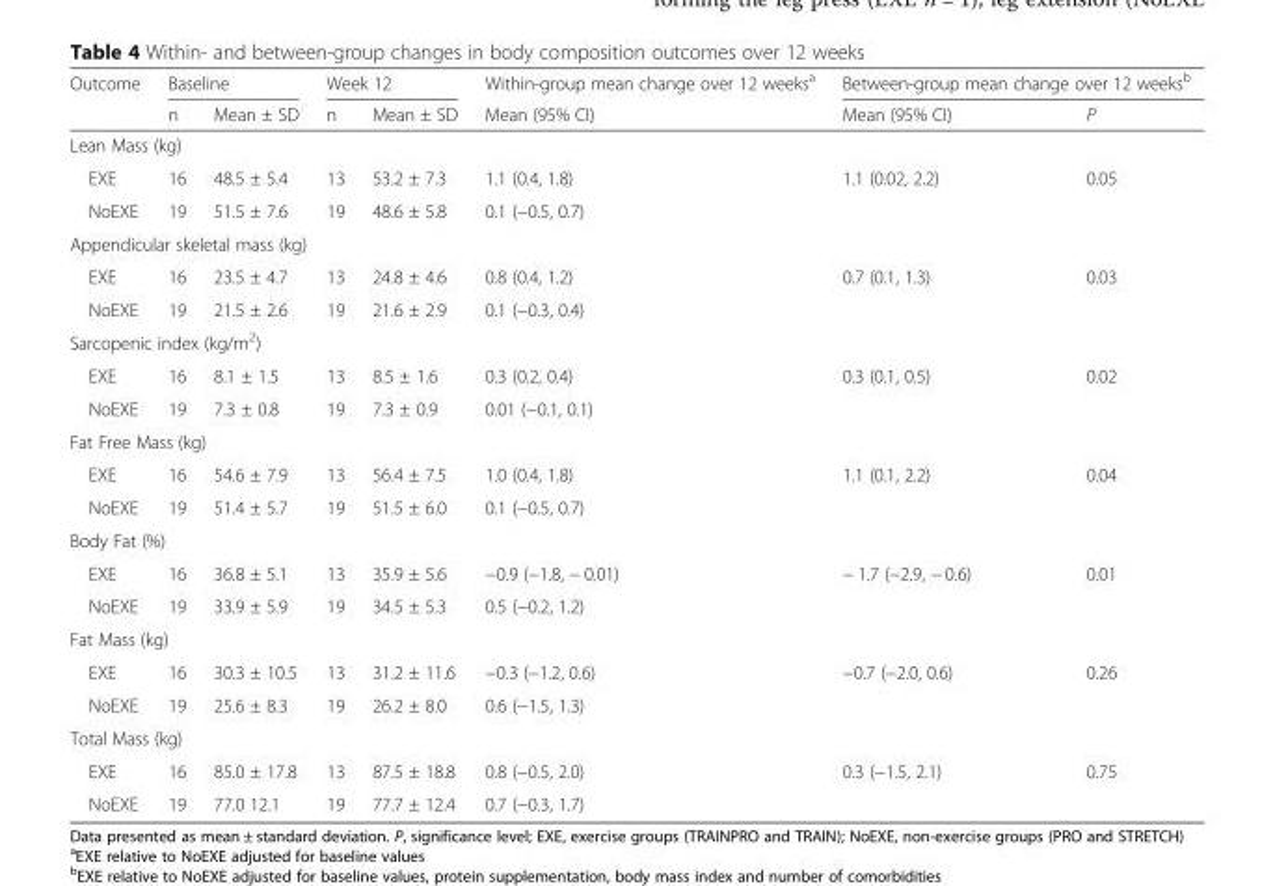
<table><thead><tr><td rowspan="2">Outcome</td><td colspan="2">Baseline</td><td colspan="2">Week 12</td><td rowspan="2">Within-group mean change over 12 weeks<sup>a</sup> Mean (95% CI)</td><td colspan="2">Between-group mean change over 12 weeks<sup>b</sup></td></tr><tr><td>n</td><td>Mean ± SD</td><td>n</td><td>Mean ± SD</td><td>Mean (95% CI)</td><td>P</td></tr></thead><tbody><tr><td colspan="8">Lean Mass (kg)</td></tr><tr><td>EXE</td><td>16</td><td>48.5 ± 5.4</td><td>13</td><td>53.2 ± 7.3</td><td>1.1 (0.4, 1.8)</td><td>1.1 (0.02, 2.2)</td><td>0.05</td></tr><tr><td>NoEXE</td><td>19</td><td>51.5 ± 7.6</td><td>19</td><td>48.6 ± 5.8</td><td>0.1 (−0.5, 0.7)</td><td></td><td></td></tr><tr><td colspan="8">Appendicular skeletal mass (kg)</td></tr><tr><td>EXE</td><td>16</td><td>23.5 ± 4.7</td><td>13</td><td>24.8 ± 4.6</td><td>0.8 (0.4, 1.2)</td><td>0.7 (0.1, 1.3)</td><td>0.03</td></tr><tr><td>NoEXE</td><td>19</td><td>21.5 ± 2.6</td><td>19</td><td>21.6 ± 2.9</td><td>0.1 (−0.3, 0.4)</td><td></td><td></td></tr><tr><td colspan="8">Sarcopenic index (kg/m<sup>2</sup>)</td></tr><tr><td>EXE</td><td>16</td><td>8.1 ± 1.5</td><td>13</td><td>8.5 ± 1.6</td><td>0.3 (0.2, 0.4)</td><td>0.3 (0.1, 0.5)</td><td>0.02</td></tr><tr><td>NoEXE</td><td>19</td><td>7.3 ± 0.8</td><td>19</td><td>7.3 ± 0.9</td><td>0.01 (−0.1, 0.1)</td><td></td><td></td></tr><tr><td colspan="8">Fat Free Mass (kg)</td></tr><tr><td>EXE</td><td>16</td><td>54.6 ± 7.9</td><td>13</td><td>56.4 ± 7.5</td><td>1.0 (0.4, 1.8)</td><td>1.1 (0.1, 2.2)</td><td>0.04</td></tr><tr><td>NoEXE</td><td>19</td><td>51.4 ± 5.7</td><td>19</td><td>51.5 ± 6.0</td><td>0.1 (−0.5, 0.7)</td><td></td><td></td></tr><tr><td colspan="8">Body Fat (%)</td></tr><tr><td>EXE</td><td>16</td><td>36.8 ± 5.1</td><td>13</td><td>35.9 ± 5.6</td><td>−0.9 (−1.8, − 0.01)</td><td>− 1.7 (−2.9, − 0.6)</td><td>0.01</td></tr><tr><td>NoEXE</td><td>19</td><td>33.9 ± 5.9</td><td>19</td><td>34.5 ± 5.3</td><td>0.5 (−0.2, 1.2)</td><td></td><td></td></tr><tr><td colspan="8">Fat Mass (kg)</td></tr><tr><td>EXE</td><td>16</td><td>30.3 ± 10.5</td><td>13</td><td>31.2 ± 11.6</td><td>−0.3 (−1.2, 0.6)</td><td>−0.7 (−2.0, 0.6)</td><td>0.26</td></tr><tr><td>NoEXE</td><td>19</td><td>25.6 ± 8.3</td><td>19</td><td>26.2 ± 8.0</td><td>0.6 (−1.5, 1.3)</td><td></td><td></td></tr><tr><td colspan="8">Total Mass (kg)</td></tr><tr><td>EXE</td><td>16</td><td>85.0 ± 17.8</td><td>13</td><td>87.5 ± 18.8</td><td>0.8 (−0.5, 2.0)</td><td>0.3 (−1.5, 2.1)</td><td>0.75</td></tr><tr><td>NoEXE</td><td>19</td><td>77.0 12.1</td><td>19</td><td>77.7 ± 12.4</td><td>0.7 (−0.3, 1.7)</td><td></td><td></td></tr></tbody></table>